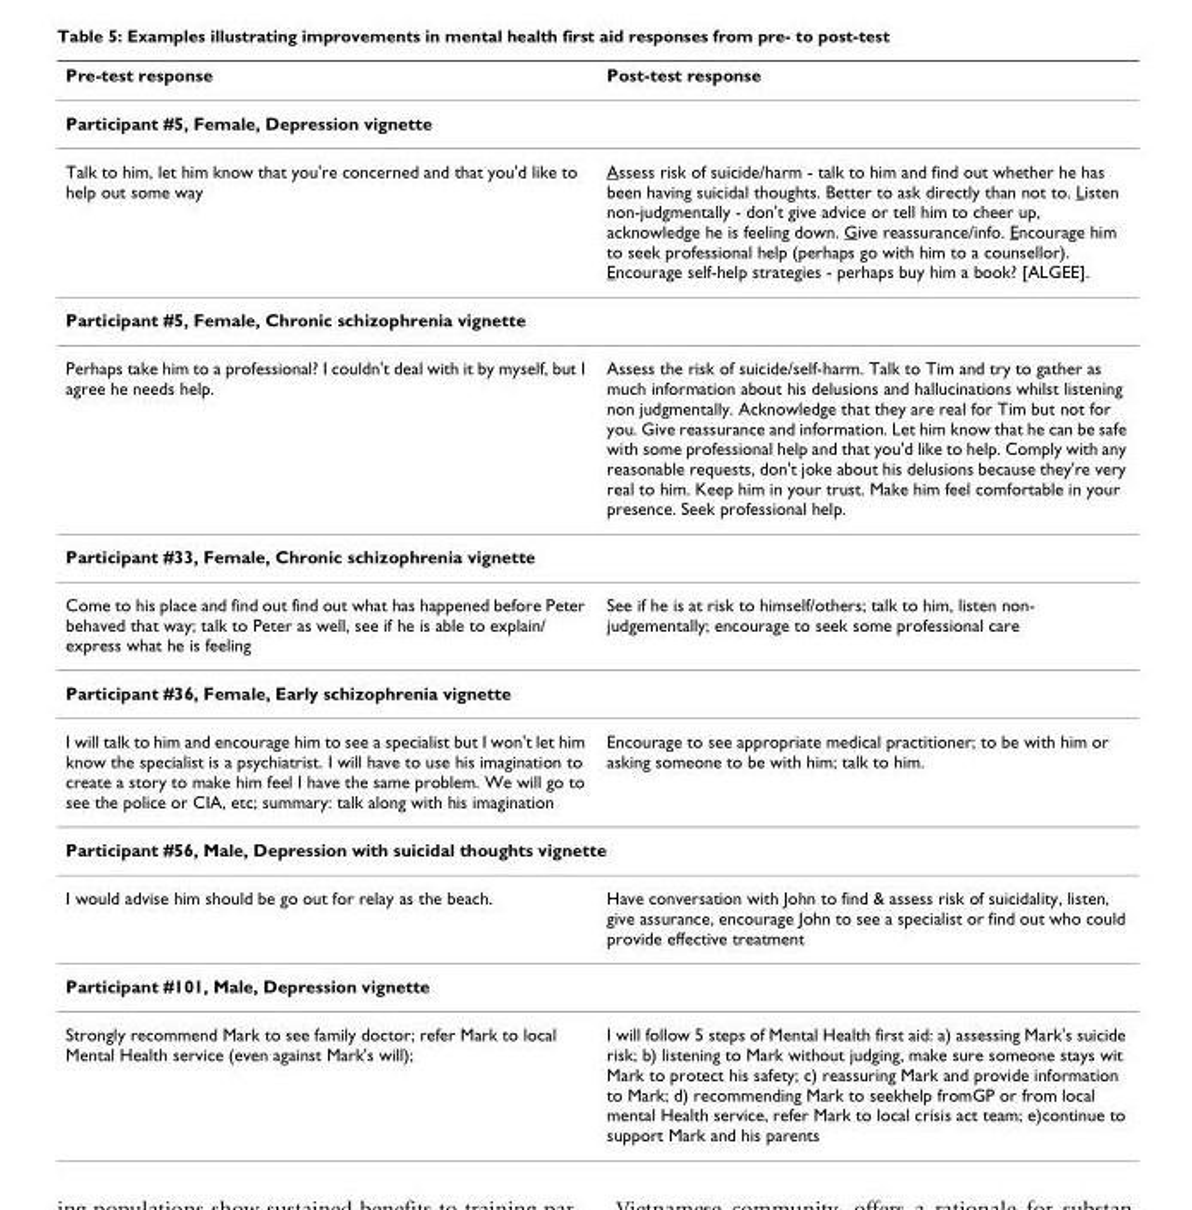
<table><thead><tr><td>Pre-test response</td><td>Post-test response</td></tr></thead><tbody><tr><td colspan="2">Participant #5, Female, Depression vignette</td></tr><tr><td>Talk to him, let him know that you&#x27;re concerned and that you&#x27;d like to help out some way</td><td>Assess risk of suicide/harm - talk to him and find out whether he has been having suicidal thoughts. Better to ask directly than not to. Listen non-judgmentally - don&#x27;t give advice or tell him to cheer up, acknowledge he is feeling down. Give reassurance/info. Encourage him to seek professional help (perhaps go with him to a counsellor). Encourage self-help strategies - perhaps buy him a book? [ALGEE].</td></tr><tr><td colspan="2">Participant #5, Female, Chronic schizophrenia vignette</td></tr><tr><td>Perhaps take him to a professional? I couldn&#x27;t deal with it by myself, but I agree he needs help.</td><td>Assess the risk of suicide/self-harm. Talk to Tim and try to gather as much information about his delusions and hallucinations whilst listening non judgmentally. Acknowledge that they are real for Tim but not for you. Give reassurance and information. Let him know that he can be safe with some professional help and that you&#x27;d like to help. Comply with any reasonable requests, don&#x27;t joke about his delusions because they&#x27;re very real to him. Keep him in your trust. Make him feel comfortable in your presence. Seek professional help.</td></tr><tr><td colspan="2">Participant #33, Female, Chronic schizophrenia vignette</td></tr><tr><td>Come to his place and find out find out what has happened before Peter behaved that way; talk to Peter as well, see if he is able to explain/ express what he is feeling</td><td>See if he is at risk to himself/others; talk to him, listen non- judgementally; encourage to seek some professional care</td></tr><tr><td colspan="2">Participant #36, Female, Early schizophrenia vignette</td></tr><tr><td>I will talk to him and encourage him to see a specialist but I won&#x27;t let him know the specialist is a psychiatrist. I will have to use his imagination to create a story to make him feel I have the same problem. We will go to see the police or CIA, etc; summary: talk along with his imagination</td><td>Encourage to see appropriate medical practitioner; to be with him or asking someone to be with him; talk to him.</td></tr><tr><td colspan="2">Participant #56, Male, Depression with suicidal thoughts vignette</td></tr><tr><td>I would advise him should be go out for relay as the beach.</td><td>Have conversation with John to find &amp; assess risk of suicidality, listen, give assurance, encourage John to see a specialist or find out who could provide effective treatment</td></tr><tr><td colspan="2">Participant #101, Male, Depression vignette</td></tr><tr><td>Strongly recommend Mark to see family doctor; refer Mark to local Mental Health service (even against Mark&#x27;s will);</td><td>I will follow 5 steps of Mental Health first aid: a) assessing Mark&#x27;s suicide risk; b) listening to Mark without judging, make sure someone stays wit Mark to protect his safety; c) reassuring Mark and provide information to Mark; d) recommending Mark to seekhelp fromGP or from local mental Health service, refer Mark to local crisis act team; e)continue to support Mark and his parents</td></tr></tbody></table>